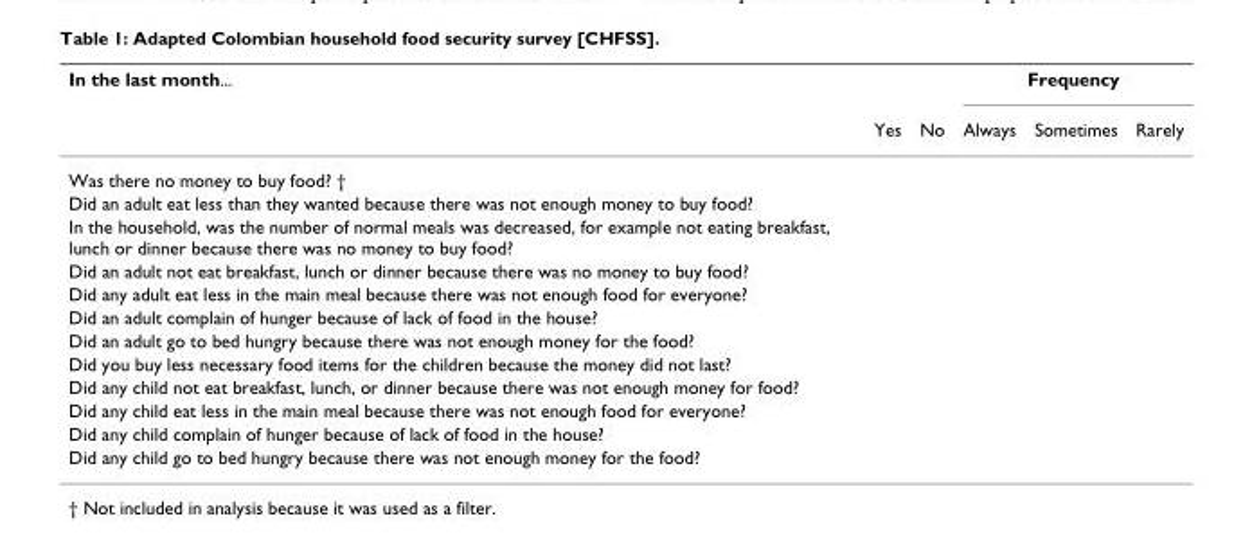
<table><thead><tr><td rowspan="2">In the last month...</td><td rowspan="2">Yes</td><td rowspan="2">No</td><td colspan="3">Frequency</td></tr><tr><td>Always</td><td>Sometimes</td><td>Rarely</td></tr></thead><tbody><tr><td colspan="6">Was there no money to buy food? †</td></tr><tr><td colspan="6">Did an adult eat less than they wanted because there was not enough money to buy food?</td></tr><tr><td colspan="6">In the household, was the number of normal meals was decreased, for example not eating breakfast, lunch or dinner because there was no money to buy food?</td></tr><tr><td colspan="6">Did an adult not eat breakfast, lunch or dinner because there was no money to buy food?</td></tr><tr><td colspan="6">Did any adult eat less in the main meal because there was not enough food for everyone?</td></tr><tr><td colspan="6">Did an adult complain of hunger because of lack of food in the house?</td></tr><tr><td colspan="6">Did an adult go to bed hungry because there was not enough money for the food?</td></tr><tr><td colspan="6">Did you buy less necessary food items for the children because the money did not last?</td></tr><tr><td colspan="6">Did any child not eat breakfast, lunch, or dinner because there was not enough money for food?</td></tr><tr><td colspan="6">Did any child eat less in the main meal because there was not enough food for everyone?</td></tr><tr><td colspan="6">Did any child complain of hunger because of lack of food in the house?</td></tr><tr><td>Did any child go to bed hungry because there was not enough money for the food?</td><td></td><td></td><td></td><td></td><td></td></tr></tbody></table>